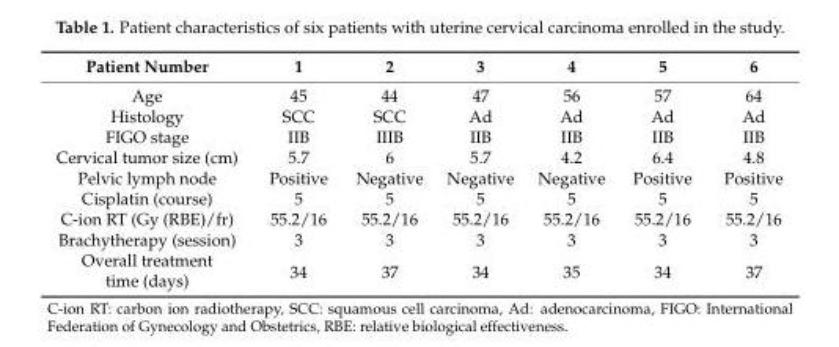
<table><thead><tr><td>Patient Number</td><td>1</td><td>2</td><td>3</td><td>4</td><td>5</td><td>6</td></tr></thead><tbody><tr><td>Age</td><td>45</td><td>44</td><td>47</td><td>56</td><td>57</td><td>64</td></tr><tr><td>Histology</td><td>SCC</td><td>SCC</td><td>Ad</td><td>Ad</td><td>Ad</td><td>Ad</td></tr><tr><td>FIGO stage</td><td>IIB</td><td>IIIB</td><td>IIB</td><td>IIB</td><td>IIB</td><td>IIB</td></tr><tr><td>Cervical tumor size (cm)</td><td>5.7</td><td>6</td><td>5.7</td><td>4.2</td><td>6.4</td><td>4.8</td></tr><tr><td>Pelvic lymph node</td><td>Positive</td><td>Negative</td><td>Negative</td><td>Negative</td><td>Positive</td><td>Positive</td></tr><tr><td>Cisplatin (course)</td><td>5</td><td>5</td><td>5</td><td>5</td><td>5</td><td>5</td></tr><tr><td>C-ion RT (Gy (RBE)/fr)</td><td>55.2/16</td><td>55.2/16</td><td>55.2/16</td><td>55.2/16</td><td>55.2/16</td><td>55.2/16</td></tr><tr><td>Brachytherapy (session)</td><td>3</td><td>3</td><td>3</td><td>3</td><td>3</td><td>3</td></tr><tr><td>Overall treatment</td><td rowspan="2">34</td><td rowspan="2">37</td><td rowspan="2">34</td><td rowspan="2">35</td><td rowspan="2">34</td><td rowspan="2">37</td></tr><tr><td>time (days)</td></tr></tbody></table>